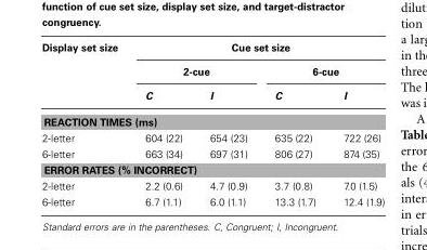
<table><thead><tr><td rowspan="3">Display set size</td><td colspan="4">Cue set size</td></tr><tr><td colspan="2">2-cue</td><td colspan="2">6-cue</td></tr><tr><td>C</td><td>I</td><td>C</td><td>I</td></tr></thead><tbody><tr><td colspan="5">REACTION TIMES (ms)</td></tr><tr><td>2-letter</td><td>604 (22)</td><td>654 (23)</td><td>635 (22)</td><td>722 (26)</td></tr><tr><td>6-letter</td><td>663 (34)</td><td>697 (31)</td><td>806 (27)</td><td>874 (35)</td></tr><tr><td colspan="5">ERROR RATES (% INCORRECT)</td></tr><tr><td>2-letter</td><td>2.2 (0.6)</td><td>4.7 (0.9)</td><td>3.7 (0.8)</td><td>7.0 (1.5)</td></tr><tr><td>6-letter</td><td>6.7 (1.1)</td><td>6.0 (1.1)</td><td>13.3 (1.7)</td><td>12.4 (1.9)</td></tr></tbody></table>